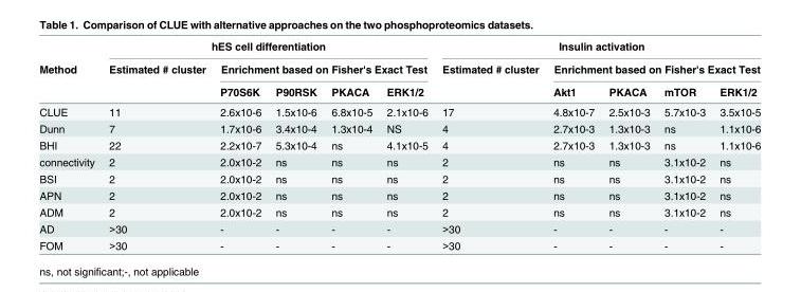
<table><thead><tr><td rowspan="3">Method</td><td colspan="5">hES cell differentiation</td><td colspan="5">Insulin activation</td></tr><tr><td rowspan="2">Estimated # cluster</td><td colspan="4">Enrichment based on Fisher&#x27;s Exact Test</td><td rowspan="2">Estimated # cluster</td><td colspan="4">Enrichment based on Fisher&#x27;s Exact Test</td></tr><tr><td>P70S6K</td><td>P90RSK</td><td>PKACA</td><td>ERK1/2</td><td>Akt1</td><td>PKACA</td><td>mTOR</td><td>ERK1/2</td></tr></thead><tbody><tr><td>CLUE</td><td>11</td><td>2.6x10-6</td><td>1.5x10-6</td><td>6.8x10-5</td><td>2.1x10-6</td><td>17</td><td>4.8x10-7</td><td>2.5x10-3</td><td>5.7x10-3</td><td>3.5x10-5</td></tr><tr><td>Dunn</td><td>7</td><td>1.7x10-6</td><td>3.4x10-4</td><td>1.3x10-4</td><td>NS</td><td>4</td><td>2.7x10-3</td><td>1.3x10-3</td><td>ns</td><td>1.1x10-6</td></tr><tr><td>BHI</td><td>22</td><td>2.2x10-7</td><td>5.3x10-4</td><td>ns</td><td>4.1x10-5</td><td>4</td><td>2.7x10-3</td><td>1.3x10-3</td><td>ns</td><td>1.1x10-6</td></tr><tr><td>connectivity</td><td>2</td><td>2.0x10-2</td><td>ns</td><td>ns</td><td>ns</td><td>2</td><td>ns</td><td>ns</td><td>3.1x10-2</td><td>ns</td></tr><tr><td>BSI</td><td>2</td><td>2.0x10-2</td><td>ns</td><td>ns</td><td>ns</td><td>2</td><td>ns</td><td>ns</td><td>3.1x10-2</td><td>ns</td></tr><tr><td>APN</td><td>2</td><td>2.0x10-2</td><td>ns</td><td>ns</td><td>ns</td><td>2</td><td>ns</td><td>ns</td><td>3.1x10-2</td><td>ns</td></tr><tr><td>ADM</td><td>2</td><td>2.0x10-2</td><td>ns</td><td>ns</td><td>ns</td><td>2</td><td>ns</td><td>ns</td><td>3.1x10-2</td><td>ns</td></tr><tr><td>AD</td><td>&gt;30</td><td>-</td><td>-</td><td>-</td><td>-</td><td>&gt;30</td><td>-</td><td>-</td><td>-</td><td>-</td></tr><tr><td>FOM</td><td>&gt;30</td><td>-</td><td>-</td><td>-</td><td>-</td><td>&gt;30</td><td>-</td><td>-</td><td>-</td><td>-</td></tr></tbody></table>